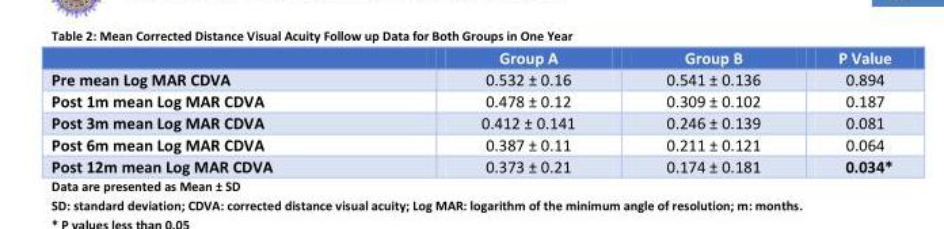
<table><thead><tr><td></td><td>Group A</td><td>Group B</td><td>P Value</td></tr></thead><tbody><tr><td>Pre mean Log MAR CDVA</td><td>0.532 ± 0.16</td><td>0.541 ± 0.136</td><td>0.894</td></tr><tr><td>Post 1m mean Log MAR CDVA</td><td>0.478 ± 0.12</td><td>0.309 ± 0.102</td><td>0.187</td></tr><tr><td>Post 3m mean Log MAR CDVA</td><td>0.412 ± 0.141</td><td>0.246 ± 0.139</td><td>0.081</td></tr><tr><td>Post 6m mean Log MAR CDVA</td><td>0.387 ± 0.11</td><td>0.211 ± 0.121</td><td>0.064</td></tr><tr><td>Post 12m mean Log MAR CDVA</td><td>0.373 ± 0.21</td><td>0.174 ± 0.181</td><td>0.034*</td></tr></tbody></table>